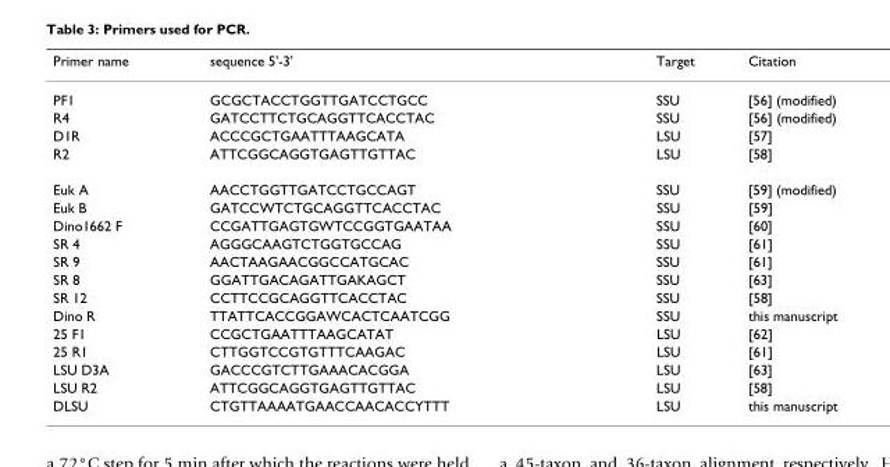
<table><thead><tr><td>Primer name</td><td>sequence 5&#x27;-3&#x27;</td><td>Target</td><td>Citation</td></tr></thead><tbody><tr><td>PF1</td><td>GCGCTACCTGGTTGATCCTGCC</td><td>SSU</td><td>[56] (modified)</td></tr><tr><td>R4</td><td>GATCCTTCTGCAGGTTCACCTAC</td><td>SSU</td><td>[56] (modified)</td></tr><tr><td>D1R</td><td>ACCCGCTGAATTTAAGCATA</td><td>LSU</td><td>[57]</td></tr><tr><td>R2</td><td>ATTCGGCAGGTGAGTTGTTAC</td><td>LSU</td><td>[58]</td></tr><tr><td>Euk A</td><td>AACCTGGTTGATCCTGCCAGT</td><td>SSU</td><td>[59] (modified)</td></tr><tr><td>Euk B</td><td>GATCCWTCTGCAGGTTCACCTAC</td><td>SSU</td><td>[59]</td></tr><tr><td>Dino1662 F</td><td>CCGATTGAGTGWTCCGGTGAATAA</td><td>SSU</td><td>[60]</td></tr><tr><td>SR 4</td><td>AGGGCAAGTCTGGTGCCAG</td><td>SSU</td><td>[61]</td></tr><tr><td>SR 9</td><td>AACTAAGAACGGCCATGCAC</td><td>SSU</td><td>[61]</td></tr><tr><td>SR 8</td><td>GGATTGACAGATTGAKAGCT</td><td>SSU</td><td>[63]</td></tr><tr><td>SR 12</td><td>CCTTCCGCAGGTTCACCTAC</td><td>SSU</td><td>[58]</td></tr><tr><td>Dino R</td><td>TTATTCACCGGAWCACTCAATCGG</td><td>SSU</td><td>this manuscript</td></tr><tr><td>25 F1</td><td>CCGCTGAATTTAAGCATAT</td><td>LSU</td><td>[62]</td></tr><tr><td>25 R1</td><td>CTTGGTCCGTGTTTCAAGAC</td><td>LSU</td><td>[61]</td></tr><tr><td>LSU D3A</td><td>GACCCGTCTTGAAACACGGA</td><td>LSU</td><td>[63]</td></tr><tr><td>LSU R2</td><td>ATTCGGCAGGTGAGTTGTTAC</td><td>LSU</td><td>[58]</td></tr><tr><td>DLSU</td><td>CTGTTAAAATGAACCAACACCYTTT</td><td>LSU</td><td>this manuscript</td></tr></tbody></table>